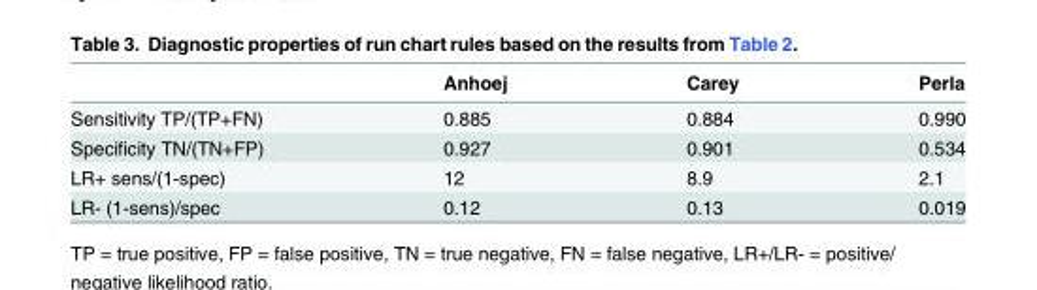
<table><thead><tr><td></td><td>Anhoej</td><td>Carey</td><td>Perla</td></tr></thead><tbody><tr><td>Sensitivity TP/(TP+FN)</td><td>0.885</td><td>0.884</td><td>0.990</td></tr><tr><td>Specificity TN/(TN+FP)</td><td>0.927</td><td>0.901</td><td>0.534</td></tr><tr><td>LR+ sens/(1-spec)</td><td>12</td><td>8.9</td><td>2.1</td></tr><tr><td>LR- (1-sens)/spec</td><td>0.12</td><td>0.13</td><td>0.019</td></tr></tbody></table>